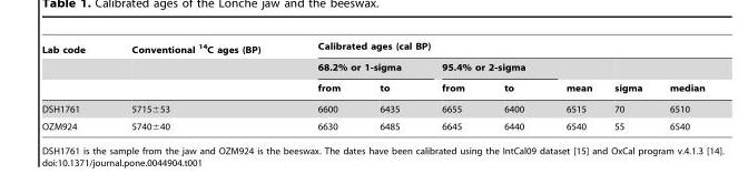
<table><thead><tr><td rowspan="3">Lab code</td><td rowspan="3">Conventional <sup>14</sup>C ages (BP)</td><td colspan="7">Calibrated ages (cal BP)</td></tr><tr><td colspan="2">68.2% or 1-sigma</td><td colspan="2">95.4% or 2-sigma</td><td rowspan="2">mean</td><td rowspan="2">sigma</td><td rowspan="2">median</td></tr><tr><td>from</td><td>to</td><td>from</td><td>to</td></tr></thead><tbody><tr><td>DSH1761</td><td>5715±53</td><td>6600</td><td>6435</td><td>6655</td><td>6400</td><td>6515</td><td>70</td><td>6510</td></tr><tr><td>OZM924</td><td>5740±40</td><td>6630</td><td>6485</td><td>6645</td><td>6440</td><td>6540</td><td>55</td><td>6540</td></tr></tbody></table>